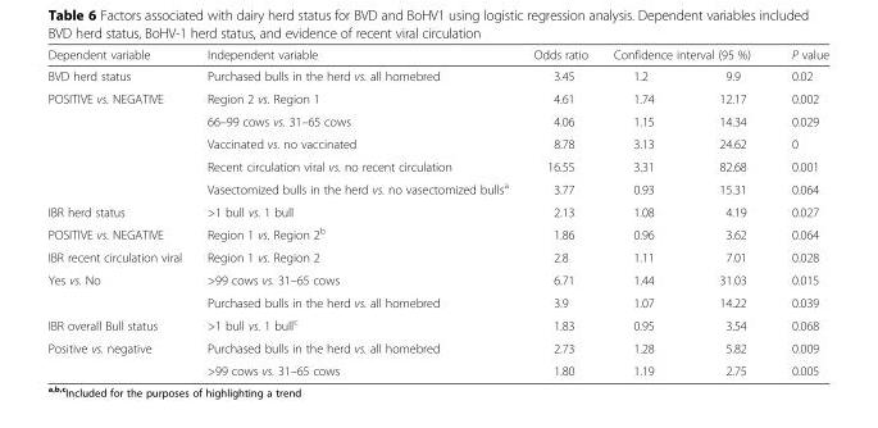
<table><thead><tr><td rowspan="2">Dependent variable BVD herd status</td><td rowspan="2">Independent variable Purchased bulls in the herd vs. all homebred</td><td rowspan="2">Odds ratio 3.45</td><td colspan="2">Confidence interval (95 %)</td><td rowspan="2">P value 0.02</td></tr><tr><td>1.2</td><td>9.9</td></tr></thead><tbody><tr><td rowspan="5">POSITIVE vs. NEGATIVE</td><td>Region 2 vs. Region 1</td><td>4.61</td><td>1.74</td><td>12.17</td><td>0.002</td></tr><tr><td>66–99 cows vs. 31–65 cows</td><td>4.06</td><td>1.15</td><td>14.34</td><td>0.029</td></tr><tr><td>Vaccinated vs. no vaccinated</td><td>8.78</td><td>3.13</td><td>24.62</td><td>0</td></tr><tr><td>Recent circulation viral vs. no recent circulation</td><td>16.55</td><td>3.31</td><td>82.68</td><td>0.001</td></tr><tr><td>Vasectomized bulls in the herd vs. no vasectomized bulls<sup>a</sup></td><td>3.77</td><td>0.93</td><td>15.31</td><td>0.064</td></tr><tr><td>IBR herd status</td><td>&gt;1 bull vs. 1 bull</td><td>2.13</td><td>1.08</td><td>4.19</td><td>0.027</td></tr><tr><td>POSITIVE vs. NEGATIVE</td><td>Region 1 vs. Region 2<sup>b</sup></td><td>1.86</td><td>0.96</td><td>3.62</td><td>0.064</td></tr><tr><td>IBR recent circulation viral</td><td>Region 1 vs. Region 2</td><td>2.8</td><td>1.11</td><td>7.01</td><td>0.028</td></tr><tr><td rowspan="2">Yes vs. No</td><td>&gt;99 cows vs. 31–65 cows</td><td>6.71</td><td>1.44</td><td>31.03</td><td>0.015</td></tr><tr><td>Purchased bulls in the herd vs. all homebred</td><td>3.9</td><td>1.07</td><td>14.22</td><td>0.039</td></tr><tr><td>IBR overall Bull status</td><td>&gt;1 bull vs. 1 bull<sup>c</sup></td><td>1.83</td><td>0.95</td><td>3.54</td><td>0.068</td></tr><tr><td rowspan="2">Positive vs. negative</td><td>Purchased bulls in the herd vs. all homebred</td><td>2.73</td><td>1.28</td><td>5.82</td><td>0.009</td></tr><tr><td>&gt;99 cows vs. 31–65 cows</td><td>1.80</td><td>1.19</td><td>2.75</td><td>0.005</td></tr></tbody></table>